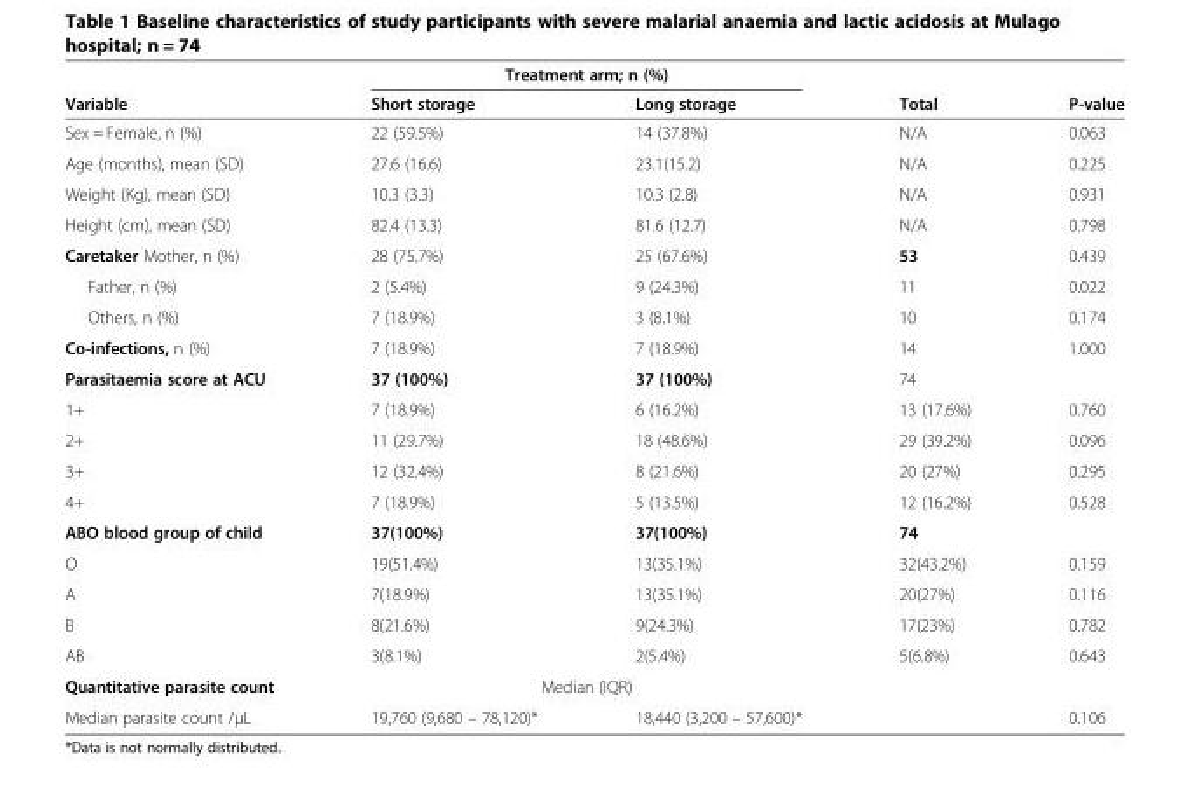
<table><thead><tr><td rowspan="2">Variable</td><td colspan="2">Treatment arm; n (%)</td><td rowspan="2">Total</td><td rowspan="2">P-value</td></tr><tr><td>Short storage</td><td>Long storage</td></tr></thead><tbody><tr><td>Sex = Female, n (%)</td><td>22 (59.5%)</td><td>14 (37.8%)</td><td>N/A</td><td>0.063</td></tr><tr><td>Age (months), mean (SD)</td><td>27.6 (16.6)</td><td>23.1(15.2)</td><td>N/A</td><td>0.225</td></tr><tr><td>Weight (Kg), mean (SD)</td><td>10.3 (3.3)</td><td>10.3 (2.8)</td><td>N/A</td><td>0.931</td></tr><tr><td>Height (cm), mean (SD)</td><td>82.4 (13.3)</td><td>81.6 (12.7)</td><td>N/A</td><td>0.798</td></tr><tr><td>Caretaker Mother, n (%)</td><td>28 (75.7%)</td><td>25 (67.6%)</td><td>53</td><td>0.439</td></tr><tr><td>Father, n (%)</td><td>2 (5.4%)</td><td>9 (24.3%)</td><td>11</td><td>0.022</td></tr><tr><td>Others, n (%)</td><td>7 (18.9%)</td><td>3 (8.1%)</td><td>10</td><td>0.174</td></tr><tr><td>Co-infections, n (%)</td><td>7 (18.9%)</td><td>7 (18.9%)</td><td>14</td><td>1.000</td></tr><tr><td>Parasitaemia score at ACU</td><td>37 (100%)</td><td>37 (100%)</td><td>74</td><td></td></tr><tr><td>1+</td><td>7 (18.9%)</td><td>6 (16.2%)</td><td>13 (17.6%)</td><td>0.760</td></tr><tr><td>2+</td><td>11 (29.7%)</td><td>18 (48.6%)</td><td>29 (39.2%)</td><td>0.096</td></tr><tr><td>3+</td><td>12 (32.4%)</td><td>8 (21.6%)</td><td>20 (27%)</td><td>0.295</td></tr><tr><td>4+</td><td>7 (18.9%)</td><td>5 (13.5%)</td><td>12 (16.2%)</td><td>0.528</td></tr><tr><td>ABO blood group of child</td><td>37(100%)</td><td>37(100%)</td><td>74</td><td></td></tr><tr><td>O</td><td>19(51.4%)</td><td>13(35.1%)</td><td>32(43.2%)</td><td>0.159</td></tr><tr><td>A</td><td>7(18.9%)</td><td>13(35.1%)</td><td>20(27%)</td><td>0.116</td></tr><tr><td>B</td><td>8(21.6%)</td><td>9(24.3%)</td><td>17(23%)</td><td>0.782</td></tr><tr><td>AB</td><td>3(8.1%)</td><td>2(5.4%)</td><td>5(6.8%)</td><td>0.643</td></tr><tr><td>Quantitative parasite count</td><td colspan="2">Median (IQR)</td><td></td><td></td></tr><tr><td>Median parasite count /μL</td><td>19,760 (9,680 – 78,120)*</td><td>18,440 (3,200 – 57,600)*</td><td></td><td>0.106</td></tr></tbody></table>